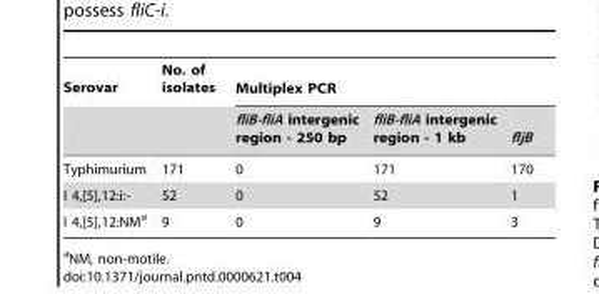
<table><thead><tr><td rowspan="2">Serovar</td><td rowspan="2">No. of isolates</td><td colspan="3">Multiplex PCR</td></tr><tr><td>fliB-fliA intergenic region - 250 bp</td><td>fliB-fliA intergenic region - 1 kb</td><td>fljB</td></tr></thead><tbody><tr><td>Typhimurium</td><td>171</td><td>0</td><td>171</td><td>170</td></tr><tr><td>I 4,[5],12:i:-</td><td>52</td><td>0</td><td>52</td><td>1</td></tr><tr><td>I 4,[5],12:NM<sup>a</sup></td><td>9</td><td>0</td><td>9</td><td>3</td></tr></tbody></table>